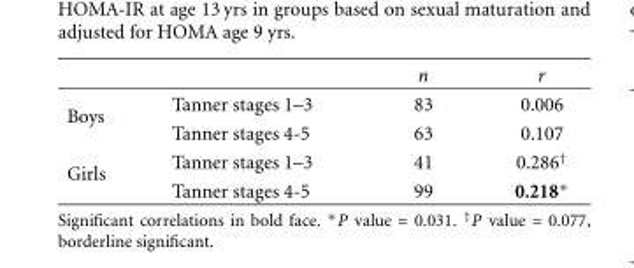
<table><thead><tr><td></td><td></td><td>n</td><td>r</td></tr></thead><tbody><tr><td rowspan="2">Boys</td><td>Tanner stages 1–3</td><td>83</td><td>0.006</td></tr><tr><td>Tanner stages 4-5</td><td>63</td><td>0.107</td></tr><tr><td rowspan="2">Girls</td><td>Tanner stages 1–3</td><td>41</td><td>0.286<sup>†</sup></td></tr><tr><td>Tanner stages 4-5</td><td>99</td><td>0.218∗</td></tr></tbody></table>